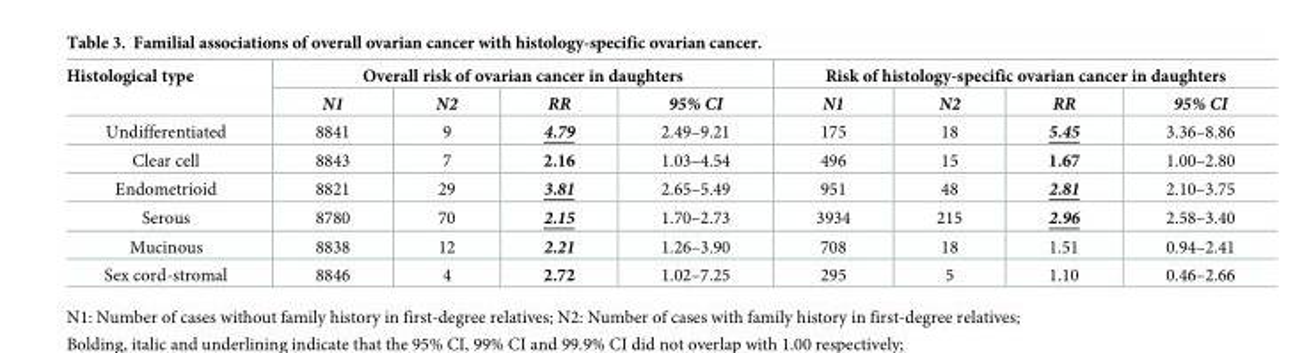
<table><thead><tr><td rowspan="2">Histological type</td><td colspan="4">Overall risk of ovarian cancer in daughters</td><td colspan="4">Risk of histology-specific ovarian cancer in daughters</td></tr><tr><td>N1</td><td>N2</td><td>RR</td><td>95% CI</td><td>N1</td><td>N2</td><td>RR</td><td>95% CI</td></tr></thead><tbody><tr><td>Undifferentiated</td><td>8841</td><td>9</td><td>4.79</td><td>2.49–9.21</td><td>175</td><td>18</td><td>5.45</td><td>3.36–8.86</td></tr><tr><td>Clear cell</td><td>8843</td><td>7</td><td>2.16</td><td>1.03–4.54</td><td>496</td><td>15</td><td>1.67</td><td>1.00–2.80</td></tr><tr><td>Endometrioid</td><td>8821</td><td>29</td><td>3.81</td><td>2.65–5.49</td><td>951</td><td>48</td><td>2.81</td><td>2.10–3.75</td></tr><tr><td>Serous</td><td>8780</td><td>70</td><td>2.15</td><td>1.70–2.73</td><td>3934</td><td>215</td><td>2.96</td><td>2.58–3.40</td></tr><tr><td>Mucinous</td><td>8838</td><td>12</td><td>2.21</td><td>1.26–3.90</td><td>708</td><td>18</td><td>1.51</td><td>0.94–2.41</td></tr><tr><td>Sex cord-stromal</td><td>8846</td><td>4</td><td>2.72</td><td>1.02–7.25</td><td>295</td><td>5</td><td>1.10</td><td>0.46–2.66</td></tr></tbody></table>